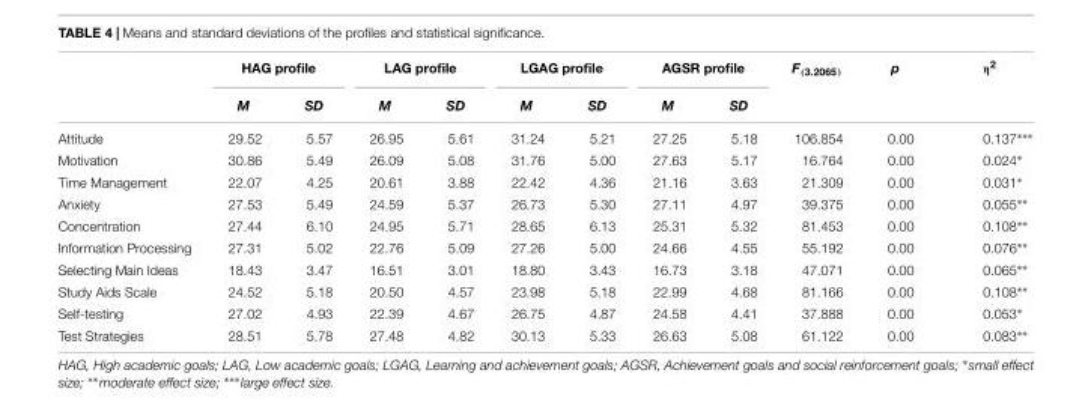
<table><thead><tr><td rowspan="2"></td><td colspan="2">HAG profile</td><td colspan="2">LAG profile</td><td colspan="2">LGAG profile</td><td colspan="2">AGSR profile</td><td rowspan="2">F<sub>(3.2065)</sub></td><td rowspan="2">p</td><td rowspan="2">η<sup>2</sup></td></tr><tr><td>M</td><td>SD</td><td>M</td><td>SD</td><td>M</td><td>SD</td><td>M</td><td>SD</td></tr></thead><tbody><tr><td>Attitude</td><td>29.52</td><td>5.57</td><td>26.95</td><td>5.61</td><td>31.24</td><td>5.21</td><td>27.25</td><td>5.18</td><td>106.854</td><td>0.00</td><td>0.137∗∗∗</td></tr><tr><td>Motivation</td><td>30.86</td><td>5.49</td><td>26.09</td><td>5.08</td><td>31.76</td><td>5.00</td><td>27.63</td><td>5.17</td><td>16.764</td><td>0.00</td><td>0.024∗</td></tr><tr><td>Time Management</td><td>22.07</td><td>4.25</td><td>20.61</td><td>3.88</td><td>22.42</td><td>4.36</td><td>21.16</td><td>3.63</td><td>21.309</td><td>0.00</td><td>0.031∗</td></tr><tr><td>Anxiety</td><td>27.53</td><td>5.49</td><td>24.59</td><td>5.37</td><td>26.73</td><td>5.30</td><td>27.11</td><td>4.97</td><td>39.375</td><td>0.00</td><td>0.055∗∗</td></tr><tr><td>Concentration</td><td>27.44</td><td>6.10</td><td>24.95</td><td>5.71</td><td>28.65</td><td>6.13</td><td>25.31</td><td>5.32</td><td>81.453</td><td>0.00</td><td>0.108∗∗</td></tr><tr><td>Information Processing</td><td>27.31</td><td>5.02</td><td>22.76</td><td>5.09</td><td>27.26</td><td>5.00</td><td>24.66</td><td>4.55</td><td>55.192</td><td>0.00</td><td>0.076∗∗</td></tr><tr><td>Selecting Main Ideas</td><td>18.43</td><td>3.47</td><td>16.51</td><td>3.01</td><td>18.80</td><td>3.43</td><td>16.73</td><td>3.18</td><td>47.071</td><td>0.00</td><td>0.065∗∗</td></tr><tr><td>Study Aids Scale</td><td>24.52</td><td>5.18</td><td>20.50</td><td>4.57</td><td>23.98</td><td>5.18</td><td>22.99</td><td>4.68</td><td>81.166</td><td>0.00</td><td>0.108∗∗</td></tr><tr><td>Self-testing</td><td>27.02</td><td>4.93</td><td>22.39</td><td>4.67</td><td>26.75</td><td>4.87</td><td>24.58</td><td>4.41</td><td>37.888</td><td>0.00</td><td>0.053∗</td></tr><tr><td>Test Strategies</td><td>28.51</td><td>5.78</td><td>27.48</td><td>4.82</td><td>30.13</td><td>5.33</td><td>26.63</td><td>5.08</td><td>61.122</td><td>0.00</td><td>0.083∗∗</td></tr></tbody></table>